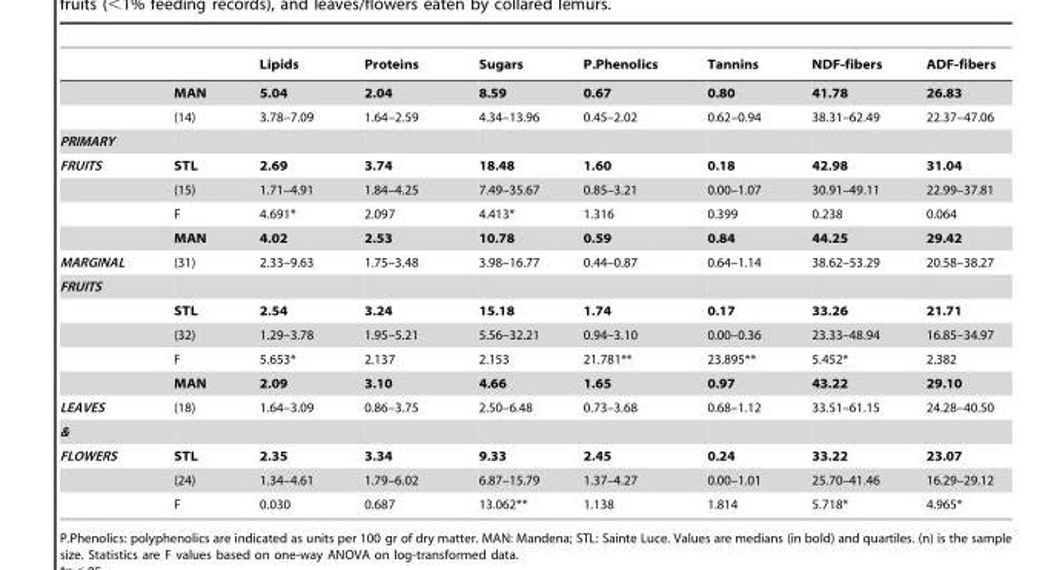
<table><thead><tr><td></td><td></td><td>Lipids</td><td>Proteins</td><td>Sugars</td><td>P.Phenolics</td><td>Tannins</td><td>NDF-fibers</td><td>ADF-fibers</td></tr></thead><tbody><tr><td></td><td>MAN</td><td>5.04</td><td>2.04</td><td>8.59</td><td>0.67</td><td>0.80</td><td>41.78</td><td>26.83</td></tr><tr><td></td><td>(14)</td><td>3.78–7.09</td><td>1.64–2.59</td><td>4.34–13.96</td><td>0.45–2.02</td><td>0.62–0.94</td><td>38.31–62.49</td><td>22.37–47.06</td></tr><tr><td colspan="9">PRIMARY</td></tr><tr><td rowspan="4">FRUITS</td><td>STL</td><td>2.69</td><td>3.74</td><td>18.48</td><td>1.60</td><td>0.18</td><td>42.98</td><td>31.04</td></tr><tr><td>(15)</td><td>1.71–4.91</td><td>1.84–4.25</td><td>7.49–35.67</td><td>0.85–3.21</td><td>0.00–1.07</td><td>30.91–49.11</td><td>22.99–37.81</td></tr><tr><td>F</td><td>4.691*</td><td>2.097</td><td>4.413*</td><td>1.316</td><td>0.399</td><td>0.238</td><td>0.064</td></tr><tr><td>MAN</td><td>4.02</td><td>2.53</td><td>10.78</td><td>0.59</td><td>0.84</td><td>44.25</td><td>29.42</td></tr><tr><td>MARGINAL</td><td>(31)</td><td>2.33–9.63</td><td>1.75–3.48</td><td>3.98–16.77</td><td>0.44–0.87</td><td>0.64–1.14</td><td>38.62–53.29</td><td>20.58–38.27</td></tr><tr><td colspan="9">FRUITS</td></tr><tr><td></td><td>STL</td><td>2.54</td><td>3.24</td><td>15.18</td><td>1.74</td><td>0.17</td><td>33.26</td><td>21.71</td></tr><tr><td></td><td>(32)</td><td>1.29–3.78</td><td>1.95–5.21</td><td>5.56–32.21</td><td>0.94–3.10</td><td>0.00–0.36</td><td>23.33–48.94</td><td>16.85–34.97</td></tr><tr><td></td><td>F</td><td>5.653*</td><td>2.137</td><td>2.153</td><td>21.781**</td><td>23.895**</td><td>5.452*</td><td>2.382</td></tr><tr><td></td><td>MAN</td><td>2.09</td><td>3.10</td><td>4.66</td><td>1.65</td><td>0.97</td><td>43.22</td><td>29.10</td></tr><tr><td>LEAVES</td><td>(18)</td><td>1.64–3.09</td><td>0.86–3.75</td><td>2.50–6.48</td><td>0.73–3.68</td><td>0.68–1.12</td><td>33.51–61.15</td><td>24.28–40.50</td></tr><tr><td colspan="9">&amp;</td></tr><tr><td rowspan="3">FLOWERS</td><td>STL</td><td>2.35</td><td>3.34</td><td>9.33</td><td>2.45</td><td>0.24</td><td>33.22</td><td>23.07</td></tr><tr><td>(24)</td><td>1.34–4.61</td><td>1.79–6.02</td><td>6.87–15.79</td><td>1.37–4.27</td><td>0.00–1.01</td><td>25.70–41.46</td><td>16.29–29.12</td></tr><tr><td>F</td><td>0.030</td><td>0.687</td><td>13.062**</td><td>1.138</td><td>1.814</td><td>5.718*</td><td>4.965*</td></tr></tbody></table>